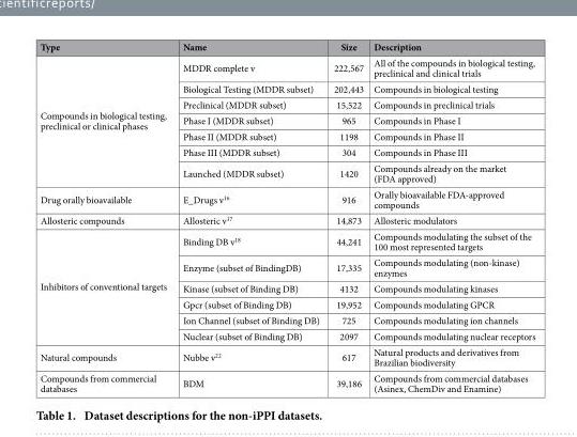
<table><thead><tr><td>Type</td><td>Name</td><td>Size</td><td>Description</td></tr></thead><tbody><tr><td rowspan="7">Compounds in biological testing, preclinical or clinical phases</td><td>MDDR complete v</td><td>222,567</td><td>All of the compounds in biological testing, preclinical and clinical trials</td></tr><tr><td>Biological Testing (MDDR subset)</td><td>202,443</td><td>Compounds in biological testing</td></tr><tr><td>Preclinical (MDDR subset)</td><td>15,522</td><td>Compounds in preclinical trials</td></tr><tr><td>Phase I (MDDR subset)</td><td>965</td><td>Compounds in Phase I</td></tr><tr><td>Phase II (MDDR subset)</td><td>1198</td><td>Compounds in Phase II</td></tr><tr><td>Phase III (MDDR subset)</td><td>304</td><td>Compounds in Phase III</td></tr><tr><td>Launched (MDDR subset)</td><td>1420</td><td>Compounds already on the market (FDA approved)</td></tr><tr><td>Drug orally bioavailable</td><td>E_Drugs v<sup>16</sup></td><td>916</td><td>Orally bioavailable FDA-approved compounds</td></tr><tr><td>Allosteric compounds</td><td>Allosteric v<sup>17</sup></td><td>14,873</td><td>Allosteric modulators</td></tr><tr><td rowspan="6">Inhibitors of conventional targets</td><td>Binding DB v<sup>18</sup></td><td>44,241</td><td>Compounds modulating the subset of the 100 most represented targets</td></tr><tr><td>Enzyme (subset of BindingDB)</td><td>17,335</td><td>Compounds modulating (non-kinase) enzymes</td></tr><tr><td>Kinase (subset of Binding DB)</td><td>4132</td><td>Compounds modulating kinases</td></tr><tr><td>Gpcr (subset of Binding DB)</td><td>19,952</td><td>Compounds modulating GPCR</td></tr><tr><td>Ion Channel (subset of Binding DB)</td><td>725</td><td>Compounds modulating ion channels</td></tr><tr><td>Nuclear (subset of Binding DB)</td><td>2097</td><td>Compounds modulating nuclear receptors</td></tr><tr><td>Natural compounds</td><td>Nubbe v<sup>22</sup></td><td>617</td><td>Natural products and derivatives from Brazilian biodiversity</td></tr><tr><td>Compounds from commercial databases</td><td>BDM</td><td>39,186</td><td>Compounds from commercial databases (Asinex, ChemDiv and Enamine)</td></tr></tbody></table>